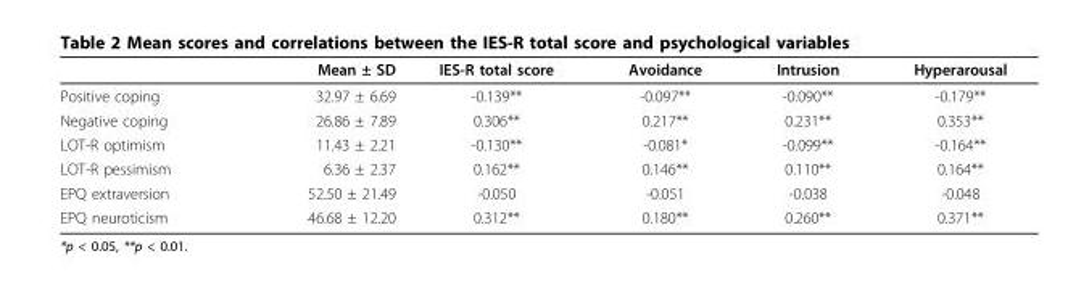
<table><thead><tr><td></td><td>Mean ± SD</td><td>IES-R total score</td><td>Avoidance</td><td>Intrusion</td><td>Hyperarousal</td></tr></thead><tbody><tr><td>Positive coping</td><td>32.97 ± 6.69</td><td>-0.139**</td><td>-0.097**</td><td>-0.090**</td><td>-0.179**</td></tr><tr><td>Negative coping</td><td>26.86 ± 7.89</td><td>0.306**</td><td>0.217**</td><td>0.231**</td><td>0.353**</td></tr><tr><td>LOT-R optimism</td><td>11.43 ± 2.21</td><td>-0.130**</td><td>-0.081*</td><td>-0.099**</td><td>-0.164**</td></tr><tr><td>LOT-R pessimism</td><td>6.36 ± 2.37</td><td>0.162**</td><td>0.146**</td><td>0.110**</td><td>0.164**</td></tr><tr><td>EPQ extraversion</td><td>52.50 ± 21.49</td><td>-0.050</td><td>-0.051</td><td>-0.038</td><td>-0.048</td></tr><tr><td>EPQ neuroticism</td><td>46.68 ± 12.20</td><td>0.312**</td><td>0.180**</td><td>0.260**</td><td>0.371**</td></tr></tbody></table>